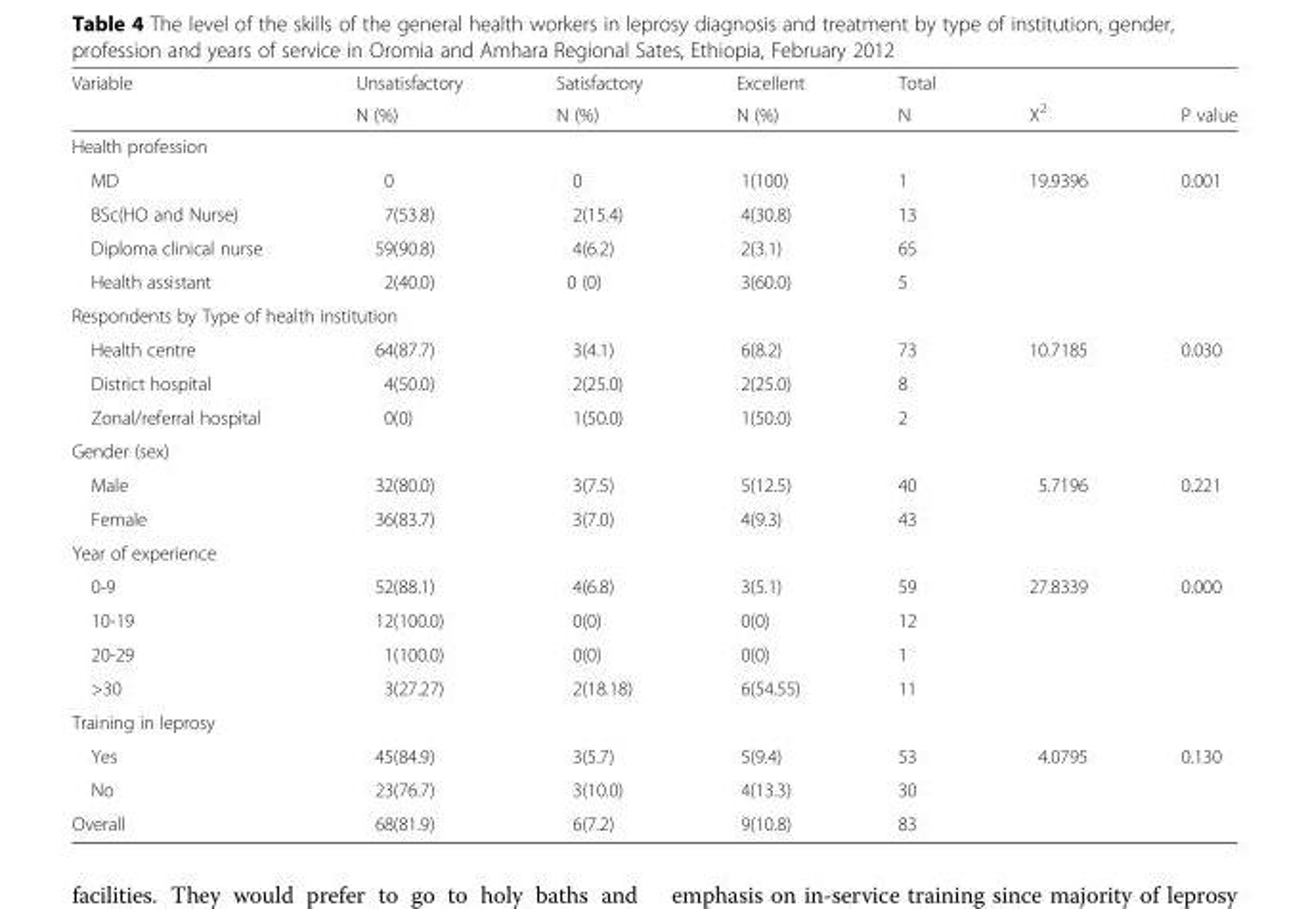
<table><thead><tr><td rowspan="2">Variable</td><td rowspan="2">Unsatisfactory N (%)</td><td rowspan="2">Satisfactory N (%)</td><td rowspan="2">Excellent N (%)</td><td rowspan="2">Total N</td><td rowspan="2">X<sup>2</sup></td><td rowspan="2">P value</td></tr><tr></tr></thead><tbody><tr><td colspan="7">Health profession</td></tr><tr><td>MD</td><td>0</td><td>0</td><td>1(100)</td><td>1</td><td rowspan="4">19.9396</td><td rowspan="4">0.001</td></tr><tr><td>BSc(HO and Nurse)</td><td>7(53.8)</td><td>2(15.4)</td><td>4(30.8)</td><td>13</td></tr><tr><td>Diploma clinical nurse</td><td>59(90.8)</td><td>4(6.2)</td><td>2(3.1)</td><td>65</td></tr><tr><td>Health assistant</td><td>2(40.0)</td><td>0 (0)</td><td>3(60.0)</td><td>5</td></tr><tr><td colspan="7">Respondents by Type of health institution</td></tr><tr><td>Health centre</td><td>64(87.7)</td><td>3(4.1)</td><td>6(8.2)</td><td>73</td><td rowspan="3">10.7185</td><td rowspan="3">0.030</td></tr><tr><td>District hospital</td><td>4(50.0)</td><td>2(25.0)</td><td>2(25.0)</td><td>8</td></tr><tr><td>Zonal/referral hospital</td><td>0(0)</td><td>1(50.0)</td><td>1(50.0)</td><td>2</td></tr><tr><td colspan="7">Gender (sex)</td></tr><tr><td>Male</td><td>32(80.0)</td><td>3(7.5)</td><td>5(12.5)</td><td>40</td><td rowspan="2">5.7196</td><td rowspan="2">0.221</td></tr><tr><td>Female</td><td>36(83.7)</td><td>3(7.0)</td><td>4(9.3)</td><td>43</td></tr><tr><td colspan="7">Year of experience</td></tr><tr><td>0-9</td><td>52(88.1)</td><td>4(6.8)</td><td>3(5.1)</td><td>59</td><td rowspan="4">27.8339</td><td rowspan="4">0.000</td></tr><tr><td>10-19</td><td>12(100.0)</td><td>0(0)</td><td>0(0)</td><td>12</td></tr><tr><td>20-29</td><td>1(100.0)</td><td>0(0)</td><td>0(0)</td><td>1</td></tr><tr><td>&gt;30</td><td>3(27.27)</td><td>2(18.18)</td><td>6(54.55)</td><td>11</td></tr><tr><td colspan="7">Training in leprosy</td></tr><tr><td>Yes</td><td>45(84.9)</td><td>3(5.7)</td><td>5(9.4)</td><td>53</td><td rowspan="2">4.0795</td><td rowspan="2">0.130</td></tr><tr><td>No</td><td>23(76.7)</td><td>3(10.0)</td><td>4(13.3)</td><td>30</td></tr><tr><td>Overall</td><td>68(81.9)</td><td>6(7.2)</td><td>9(10.8)</td><td>83</td><td colspan="2"></td></tr></tbody></table>